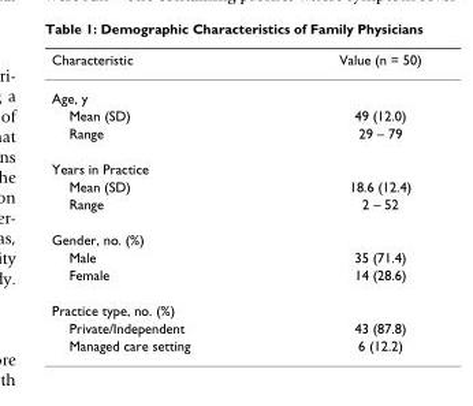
<table><thead><tr><td>Characteristic</td><td>Value (n = 50)</td></tr></thead><tbody><tr><td colspan="2">Age, y</td></tr><tr><td>Mean (SD)</td><td>49 (12.0)</td></tr><tr><td>Range</td><td>29 – 79</td></tr><tr><td colspan="2">Years in Practice</td></tr><tr><td>Mean (SD)</td><td>18.6 (12.4)</td></tr><tr><td>Range</td><td>2 – 52</td></tr><tr><td colspan="2">Gender, no. (%)</td></tr><tr><td>Male</td><td>35 (71.4)</td></tr><tr><td>Female</td><td>14 (28.6)</td></tr><tr><td colspan="2">Practice type, no. (%)</td></tr><tr><td>Private/Independent</td><td>43 (87.8)</td></tr><tr><td>Managed care setting</td><td>6 (12.2)</td></tr></tbody></table>